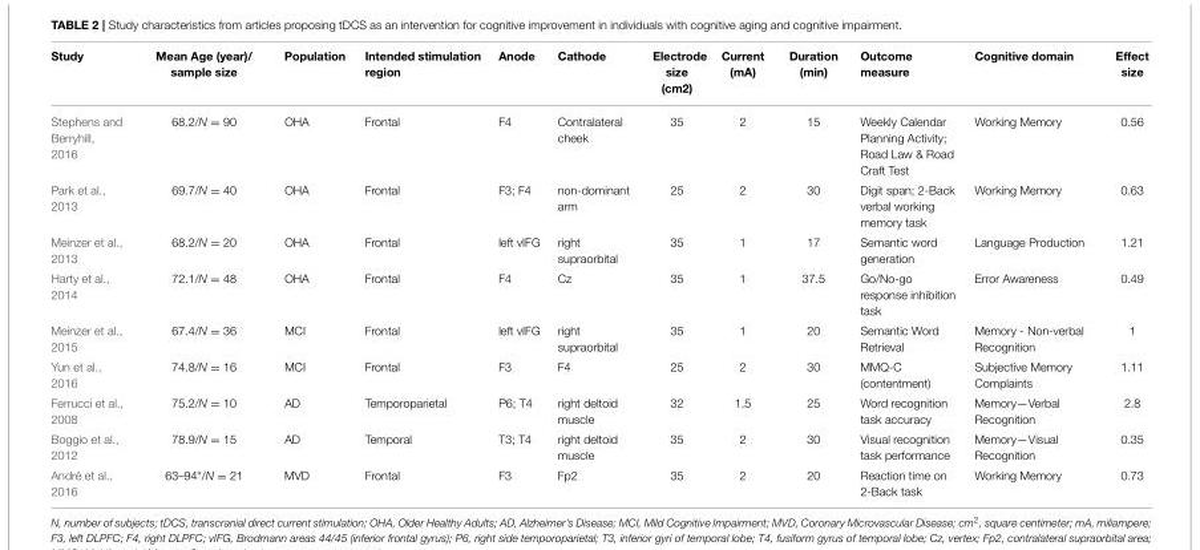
<table><thead><tr><td>Study</td><td>Mean Age (year)/ sample size</td><td>Population</td><td>Intended stimulation region</td><td>Anode</td><td>Cathode</td><td>Electrode size (cm2)</td><td>Current (mA)</td><td>Duration (min)</td><td>Outcome measure</td><td>Cognitive domain</td><td>Effect size</td></tr></thead><tbody><tr><td>Stephens and Berryhill, 2016</td><td>68.2/N = 90</td><td>OHA</td><td>Frontal</td><td>F4</td><td>Contralateral cheek</td><td>35</td><td>2</td><td>15</td><td>Weekly Calendar Planning Activity; Road Law &amp; Road Craft Test</td><td>Working Memory</td><td>0.56</td></tr><tr><td>Park et al., 2013</td><td>69.7/N = 40</td><td>OHA</td><td>Frontal</td><td>F3; F4</td><td>non-dominant arm</td><td>25</td><td>2</td><td>30</td><td>Digit span; 2-Back verbal working memory task</td><td>Working Memory</td><td>0.63</td></tr><tr><td>Meinzer et al., 2013</td><td>68.2/N = 20</td><td>OHA</td><td>Frontal</td><td>left vIFG</td><td>right supraorbital</td><td>35</td><td>1</td><td>17</td><td>Semantic word generation</td><td>Language Production</td><td>1.21</td></tr><tr><td>Harty et al., 2014</td><td>72.1/N = 48</td><td>OHA</td><td>Frontal</td><td>F4</td><td>Cz</td><td>35</td><td>1</td><td>37.5</td><td>Go/No-go response inhibition task</td><td>Error Awareness</td><td>0.49</td></tr><tr><td>Meinzer et al., 2015</td><td>67.4/N = 36</td><td>MCI</td><td>Frontal</td><td>left vIFG</td><td>right supraorbital</td><td>35</td><td>1</td><td>20</td><td>Semantic Word Retrieval</td><td>Memory - Non-verbal Recognition</td><td>1</td></tr><tr><td>Yun et al., 2016</td><td>74.8/N = 16</td><td>MCI</td><td>Frontal</td><td>F3</td><td>F4</td><td>25</td><td>2</td><td>30</td><td>MMQ-C (contentment)</td><td>Subjective Memory Complaints</td><td>1.11</td></tr><tr><td>Ferrucci et al., 2008</td><td>75.2/N = 10</td><td>AD</td><td>Temporoparietal</td><td>P6; T4</td><td>right deltoid muscle</td><td>32</td><td>1.5</td><td>25</td><td>Word recognition task accuracy</td><td>Memory—Verbal Recognition</td><td>2.8</td></tr><tr><td>Boggio et al., 2012</td><td>78.9/N = 15</td><td>AD</td><td>Temporal</td><td>T3; T4</td><td>right deltoid muscle</td><td>35</td><td>2</td><td>30</td><td>Visual recognition task performance</td><td>Memory—Visual Recognition</td><td>0.35</td></tr><tr><td>André et al., 2016</td><td>63–94*/N = 21</td><td>MVD</td><td>Frontal</td><td>F3</td><td>Fp2</td><td>35</td><td>2</td><td>20</td><td>Reaction time on 2-Back task</td><td>Working Memory</td><td>0.73</td></tr></tbody></table>